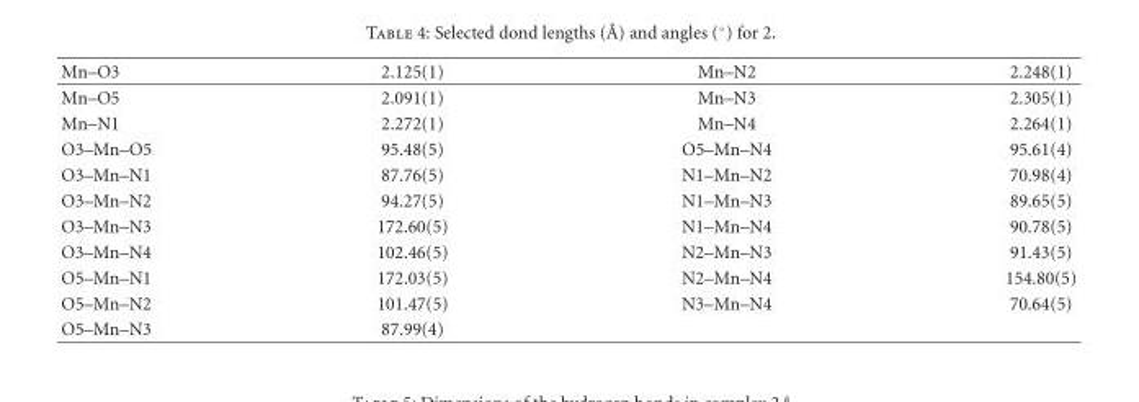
<table><thead><tr><td>Mn–O3</td><td>2.125(1)</td><td>Mn–N2</td><td>2.248(1)</td></tr></thead><tbody><tr><td>Mn–O5</td><td>2.091(1)</td><td>Mn–N3</td><td>2.305(1)</td></tr><tr><td>Mn–N1</td><td>2.272(1)</td><td>Mn–N4</td><td>2.264(1)</td></tr><tr><td>O3–Mn–O5</td><td>95.48(5)</td><td>O5–Mn–N4</td><td>95.61(4)</td></tr><tr><td>O3–Mn–N1</td><td>87.76(5)</td><td>N1–Mn–N2</td><td>70.98(4)</td></tr><tr><td>O3–Mn–N2</td><td>94.27(5)</td><td>N1–Mn–N3</td><td>89.65(5)</td></tr><tr><td>O3–Mn–N3</td><td>172.60(5)</td><td>N1–Mn–N4</td><td>90.78(5)</td></tr><tr><td>O3–Mn–N4</td><td>102.46(5)</td><td>N2–Mn–N3</td><td>91.43(5)</td></tr><tr><td>O5–Mn–N1</td><td>172.03(5)</td><td>N2–Mn–N4</td><td>154.80(5)</td></tr><tr><td>O5–Mn–N2</td><td>101.47(5)</td><td>N3–Mn–N4</td><td>70.64(5)</td></tr><tr><td>O5–Mn–N3</td><td>87.99(4)</td><td></td><td></td></tr></tbody></table>